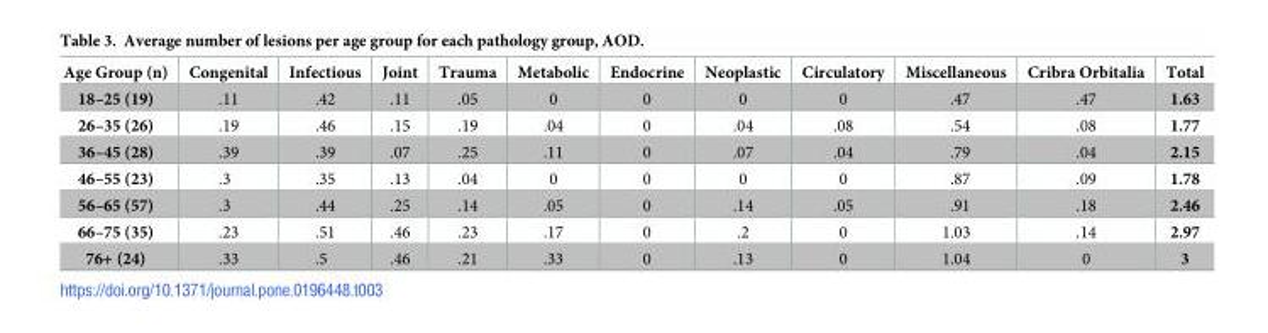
<table><thead><tr><td>Age Group (n)</td><td>Congenital</td><td>Infectious</td><td>Joint</td><td>Trauma</td><td>Metabolic</td><td>Endocrine</td><td>Neoplastic</td><td>Circulatory</td><td>Miscellaneous</td><td>Cribra Orbitalia</td><td>Total</td></tr></thead><tbody><tr><td>18–25 (19)</td><td>.11</td><td>.42</td><td>.11</td><td>.05</td><td>0</td><td>0</td><td>0</td><td>0</td><td>.47</td><td>.47</td><td>1.63</td></tr><tr><td>26–35 (26)</td><td>.19</td><td>.46</td><td>.15</td><td>.19</td><td>.04</td><td>0</td><td>.04</td><td>.08</td><td>.54</td><td>.08</td><td>1.77</td></tr><tr><td>36–45 (28)</td><td>.39</td><td>.39</td><td>.07</td><td>.25</td><td>.11</td><td>0</td><td>.07</td><td>.04</td><td>.79</td><td>.04</td><td>2.15</td></tr><tr><td>46–55 (23)</td><td>.3</td><td>.35</td><td>.13</td><td>.04</td><td>0</td><td>0</td><td>0</td><td>0</td><td>.87</td><td>.09</td><td>1.78</td></tr><tr><td>56–65 (57)</td><td>.3</td><td>.44</td><td>.25</td><td>.14</td><td>.05</td><td>0</td><td>.14</td><td>.05</td><td>.91</td><td>.18</td><td>2.46</td></tr><tr><td>66–75 (35)</td><td>.23</td><td>.51</td><td>.46</td><td>.23</td><td>.17</td><td>0</td><td>.2</td><td>0</td><td>1.03</td><td>.14</td><td>2.97</td></tr><tr><td>76+ (24)</td><td>.33</td><td>.5</td><td>.46</td><td>.21</td><td>.33</td><td>0</td><td>.13</td><td>0</td><td>1.04</td><td>0</td><td>3</td></tr></tbody></table>